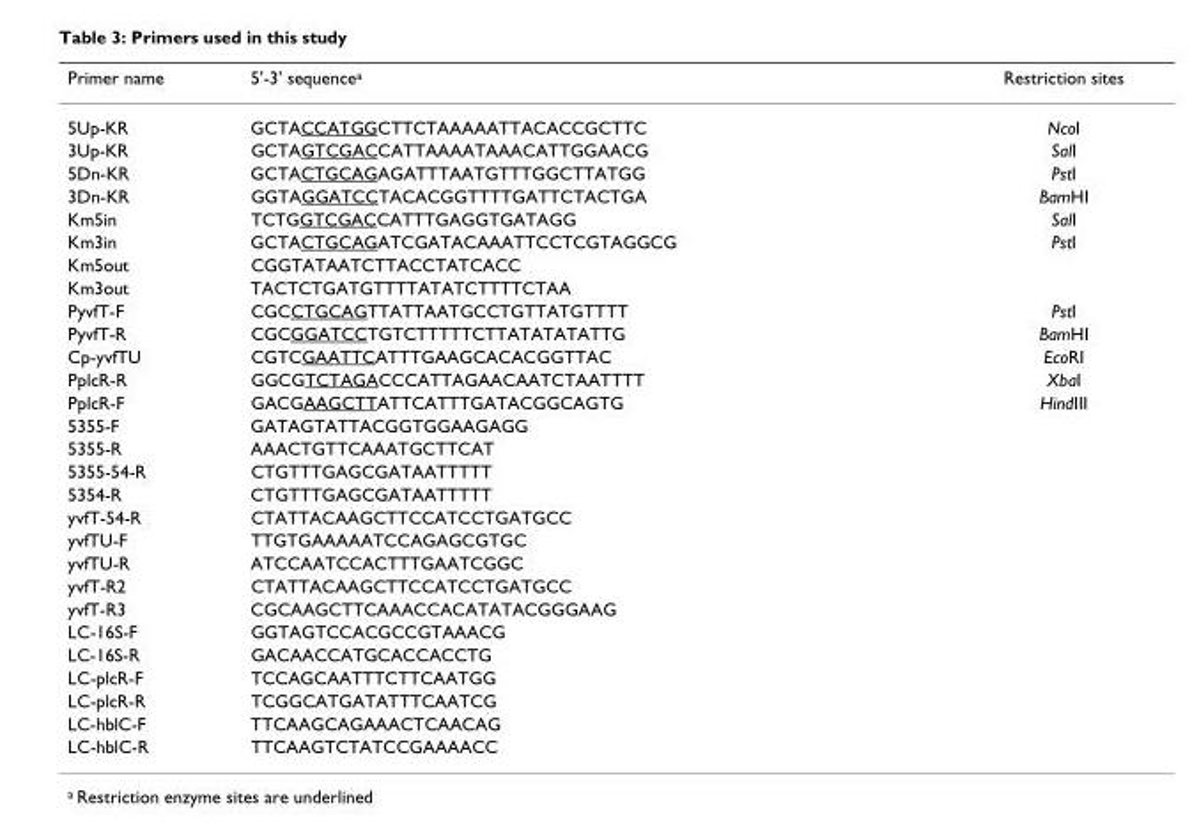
<table><thead><tr><td>Primer name</td><td>5&#x27;-3&#x27; sequence<sup>a</sup></td><td>Restriction sites</td></tr></thead><tbody><tr><td>5Up-KR</td><td>GCTACCATGGCTTCTAAAAATTACACCGCTTC</td><td>NcoI</td></tr><tr><td>3Up-KR</td><td>GCTAGTCGACCATTAAAATAAACATTGGAACG</td><td>SalI</td></tr><tr><td>5Dn-KR</td><td>GCTACTGCAGAGATTTAATGTTTGGCTTATGG</td><td>PstI</td></tr><tr><td>3Dn-KR</td><td>GGTAGGATCCTACACGGTTTTGATTCTACTGA</td><td>BamHI</td></tr><tr><td>Km5in</td><td>TCTGGTCGACCATTTGAGGTGATAGG</td><td>SalI</td></tr><tr><td>Km3in</td><td>GCTACTGCAGATCGATACAAATTCCTCGTAGGCG</td><td>PstI</td></tr><tr><td>Km5out</td><td>CGGTATAATCTTACCTATCACC</td><td></td></tr><tr><td>Km3out</td><td>TACTCTGATGTTTTATATCTTTTCTAA</td><td></td></tr><tr><td>PyvfT-F</td><td>CGCCTGCAGTTATTAATGCCTGTTATGTTTT</td><td>PstI</td></tr><tr><td>PyvfT-R</td><td>CGCGGATCCTGTCTTTTTCTTATATATATTG</td><td>BamHI</td></tr><tr><td>Cp-yvfTU</td><td>CGTCGAATTCATTTGAAGCACACGGTTAC</td><td>EcoRI</td></tr><tr><td>PplcR-R</td><td>GGCGTCTAGACCCATTAGAACAATCTAATTTT</td><td>XbaI</td></tr><tr><td>PplcR-F</td><td>GACGAAGCTTATTCATTTGATACGGCAGTG</td><td>HindIII</td></tr><tr><td>5355-F</td><td>GATAGTATTACGGTGGAAGAGG</td><td></td></tr><tr><td>5355-R</td><td>AAACTGTTCAAATGCTTCAT</td><td></td></tr><tr><td>5355-54-R</td><td>CTGTTTGAGCGATAATTTTT</td><td></td></tr><tr><td>5354-R</td><td>CTGTTTGAGCGATAATTTTT</td><td></td></tr><tr><td>yvfT-54-R</td><td>CTATTACAAGCTTCCATCCTGATGCC</td><td></td></tr><tr><td>yvfTU-F</td><td>TTGTGAAAAATCCAGAGCGTGC</td><td></td></tr><tr><td>yvfTU-R</td><td>ATCCAATCCACTTTGAATCGGC</td><td></td></tr><tr><td>yvfT-R2</td><td>CTATTACAAGCTTCCATCCTGATGCC</td><td></td></tr><tr><td>yvfT-R3</td><td>CGCAAGCTTCAAACCACATATACGGGAAG</td><td></td></tr><tr><td>LC-16S-F</td><td>GGTAGTCCACGCCGTAAACG</td><td></td></tr><tr><td>LC-16S-R</td><td>GACAACCATGCACCACCTG</td><td></td></tr><tr><td>LC-plcR-F</td><td>TCCAGCAATTTCTTCAATGG</td><td></td></tr><tr><td>LC-plcR-R</td><td>TCGGCATGATATTTCAATCG</td><td></td></tr><tr><td>LC-hblC-F</td><td>TTCAAGCAGAAACTCAACAG</td><td></td></tr><tr><td>LC-hblC-R</td><td>TTCAAGTCTATCCGAAAACC</td><td></td></tr></tbody></table>